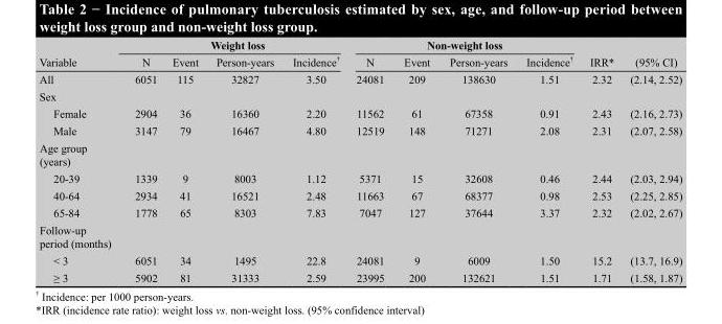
<table><thead><tr><td rowspan="2">Variable</td><td colspan="4">Weight loss</td><td colspan="4">Non-weight loss</td><td rowspan="2">IRR*</td><td rowspan="2">(95% CI)</td></tr><tr><td>N</td><td>Event</td><td>Person-years</td><td>Incidence †</td><td>N</td><td>Event</td><td>Person-years</td><td>Incidence †</td></tr></thead><tbody><tr><td>All</td><td>6051</td><td>115</td><td>32827</td><td>3.50</td><td>24081</td><td>209</td><td>138630</td><td>1.51</td><td>2.32</td><td>(2.14, 2.52)</td></tr><tr><td colspan="11">Sex</td></tr><tr><td>Female</td><td>2904</td><td>36</td><td>16360</td><td>2.20</td><td>11562</td><td>61</td><td>67358</td><td>0.91</td><td>2.43</td><td>(2.16, 2.73)</td></tr><tr><td>Male</td><td>3147</td><td>79</td><td>16467</td><td>4.80</td><td>12519</td><td>148</td><td>71271</td><td>2.08</td><td>2.31</td><td>(2.07, 2.58)</td></tr><tr><td colspan="11">Age group (years)</td></tr><tr><td>20-39</td><td>1339</td><td>9</td><td>8003</td><td>1.12</td><td>5371</td><td>15</td><td>32608</td><td>0.46</td><td>2.44</td><td>(2.03, 2.94)</td></tr><tr><td>40-64</td><td>2934</td><td>41</td><td>16521</td><td>2.48</td><td>11663</td><td>67</td><td>68377</td><td>0.98</td><td>2.53</td><td>(2.25, 2.85)</td></tr><tr><td>65-84</td><td>1778</td><td>65</td><td>8303</td><td>7.83</td><td>7047</td><td>127</td><td>37644</td><td>3.37</td><td>2.32</td><td>(2.02, 2.67)</td></tr><tr><td colspan="11">Follow-up period (months)</td></tr><tr><td>&lt; 3</td><td>6051</td><td>34</td><td>1495</td><td>22.8</td><td>24081</td><td>9</td><td>6009</td><td>1.50</td><td>15.2</td><td>(13.7, 16.9)</td></tr><tr><td>≥ 3</td><td>5902</td><td>81</td><td>31333</td><td>2.59</td><td>23995</td><td>200</td><td>132621</td><td>1.51</td><td>1.71</td><td>(1.58, 1.87)</td></tr></tbody></table>